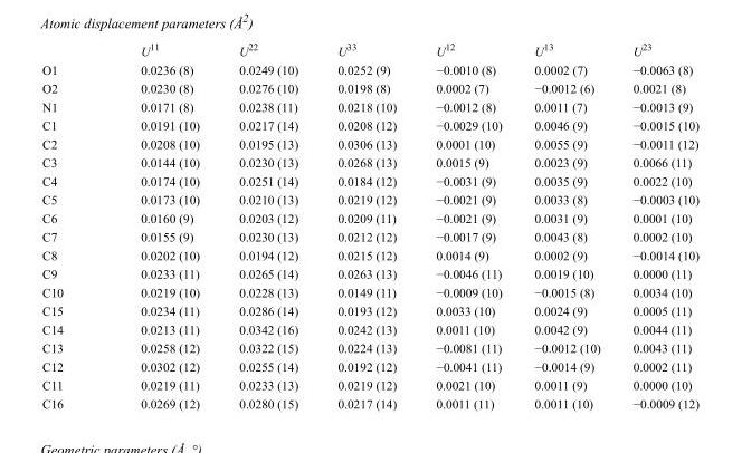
<table><thead><tr><td></td><td>U<sup>11</sup></td><td>U<sup>22</sup></td><td>U<sup>33</sup></td><td>U<sup>12</sup></td><td>U<sup>13</sup></td><td>U<sup>23</sup></td></tr></thead><tbody><tr><td>O1</td><td>0.0236 (8)</td><td>0.0249 (10)</td><td>0.0252 (9)</td><td>−0.0010 (8)</td><td>0.0002 (7)</td><td>−0.0063 (8)</td></tr><tr><td>O2</td><td>0.0230 (8)</td><td>0.0276 (10)</td><td>0.0198 (8)</td><td>0.0002 (7)</td><td>−0.0012 (6)</td><td>0.0021 (8)</td></tr><tr><td>N1</td><td>0.0171 (8)</td><td>0.0238 (11)</td><td>0.0218 (10)</td><td>−0.0012 (8)</td><td>0.0011 (7)</td><td>−0.0013 (9)</td></tr><tr><td>C1</td><td>0.0191 (10)</td><td>0.0217 (14)</td><td>0.0208 (12)</td><td>−0.0029 (10)</td><td>0.0046 (9)</td><td>−0.0015 (10)</td></tr><tr><td>C2</td><td>0.0208 (10)</td><td>0.0195 (13)</td><td>0.0306 (13)</td><td>0.0001 (10)</td><td>0.0055 (9)</td><td>−0.0011 (12)</td></tr><tr><td>C3</td><td>0.0144 (10)</td><td>0.0230 (13)</td><td>0.0268 (13)</td><td>0.0015 (9)</td><td>0.0023 (9)</td><td>0.0066 (11)</td></tr><tr><td>C4</td><td>0.0174 (10)</td><td>0.0251 (14)</td><td>0.0184 (12)</td><td>−0.0031 (9)</td><td>0.0035 (9)</td><td>0.0022 (10)</td></tr><tr><td>C5</td><td>0.0173 (10)</td><td>0.0210 (13)</td><td>0.0219 (12)</td><td>−0.0021 (9)</td><td>0.0033 (8)</td><td>−0.0003 (10)</td></tr><tr><td>C6</td><td>0.0160 (9)</td><td>0.0203 (12)</td><td>0.0209 (11)</td><td>−0.0021 (9)</td><td>0.0031 (9)</td><td>0.0001 (10)</td></tr><tr><td>C7</td><td>0.0155 (9)</td><td>0.0230 (13)</td><td>0.0212 (12)</td><td>−0.0017 (9)</td><td>0.0043 (8)</td><td>0.0002 (10)</td></tr><tr><td>C8</td><td>0.0202 (10)</td><td>0.0194 (12)</td><td>0.0215 (12)</td><td>0.0014 (9)</td><td>0.0002 (9)</td><td>−0.0014 (10)</td></tr><tr><td>C9</td><td>0.0233 (11)</td><td>0.0265 (14)</td><td>0.0263 (13)</td><td>−0.0046 (11)</td><td>0.0019 (10)</td><td>0.0000 (11)</td></tr><tr><td>C10</td><td>0.0219 (10)</td><td>0.0228 (13)</td><td>0.0149 (11)</td><td>−0.0009 (10)</td><td>−0.0015 (8)</td><td>0.0034 (10)</td></tr><tr><td>C15</td><td>0.0234 (11)</td><td>0.0286 (14)</td><td>0.0193 (12)</td><td>0.0033 (10)</td><td>0.0024 (9)</td><td>0.0005 (11)</td></tr><tr><td>C14</td><td>0.0213 (11)</td><td>0.0342 (16)</td><td>0.0242 (13)</td><td>0.0011 (10)</td><td>0.0042 (9)</td><td>0.0044 (11)</td></tr><tr><td>C13</td><td>0.0258 (12)</td><td>0.0322 (15)</td><td>0.0224 (13)</td><td>−0.0081 (11)</td><td>−0.0012 (10)</td><td>0.0043 (11)</td></tr><tr><td>C12</td><td>0.0302 (12)</td><td>0.0255 (14)</td><td>0.0192 (12)</td><td>−0.0041 (11)</td><td>−0.0014 (9)</td><td>0.0002 (11)</td></tr><tr><td>C11</td><td>0.0219 (11)</td><td>0.0233 (13)</td><td>0.0219 (12)</td><td>0.0021 (10)</td><td>0.0011 (9)</td><td>0.0000 (10)</td></tr><tr><td>C16</td><td>0.0269 (12)</td><td>0.0280 (15)</td><td>0.0217 (14)</td><td>0.0011 (11)</td><td>0.0011 (10)</td><td>−0.0009 (12)</td></tr></tbody></table>